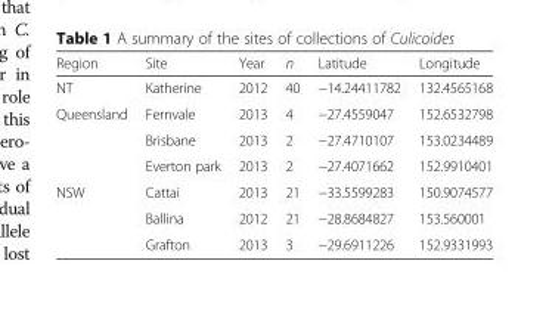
<table><thead><tr><td>Region</td><td>Site</td><td>Year</td><td>n</td><td>Latitude</td><td>Longitude</td></tr></thead><tbody><tr><td>NT</td><td>Katherine</td><td>2012</td><td>40</td><td>−14.24411782</td><td>132.4565168</td></tr><tr><td rowspan="3">Queensland</td><td>Fernvale</td><td>2013</td><td>4</td><td>−27.4559047</td><td>152.6532798</td></tr><tr><td>Brisbane</td><td>2013</td><td>2</td><td>−27.4710107</td><td>153.0234489</td></tr><tr><td>Everton park</td><td>2013</td><td>2</td><td>−27.4071662</td><td>152.9910401</td></tr><tr><td rowspan="3">NSW</td><td>Cattai</td><td>2013</td><td>21</td><td>−33.5599283</td><td>150.9074577</td></tr><tr><td>Ballina</td><td>2012</td><td>21</td><td>−28.8684827</td><td>153.560001</td></tr><tr><td>Grafton</td><td>2013</td><td>3</td><td>−29.6911226</td><td>152.9331993</td></tr></tbody></table>